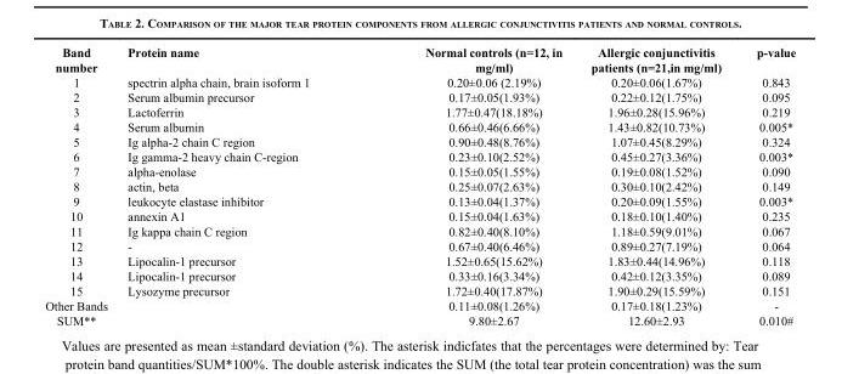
<table><thead><tr><td>Band number</td><td>Protein name</td><td>Normal controls (n=12, in mg/ml)</td><td>Allergic conjunctivitis patients (n=21,in mg/ml)</td><td>p-value</td></tr></thead><tbody><tr><td>1</td><td>spectrin alpha chain, brain isoform 1</td><td>0.20±0.06 (2.19%)</td><td>0.20±0.06(1.67%)</td><td>0.843</td></tr><tr><td>2</td><td>Serum albumin precursor</td><td>0.17±0.05(1.93%)</td><td>0.22±0.12(1.75%)</td><td>0.095</td></tr><tr><td>3</td><td>Lactoferrin</td><td>1.77±0.47(18.18%)</td><td>1.96±0.28(15.96%)</td><td>0.219</td></tr><tr><td>4</td><td>Serum albumin</td><td>0.66±0.46(6.66%)</td><td>1.43±0.82(10.73%)</td><td>0.005*</td></tr><tr><td>5</td><td>Ig alpha-2 chain C region</td><td>0.90±0.48(8.76%)</td><td>1.07±0.45(8.29%)</td><td>0.324</td></tr><tr><td>6</td><td>Ig gamma-2 heavy chain C-region</td><td>0.23±0.10(2.52%)</td><td>0.45±0.27(3.36%)</td><td>0.003*</td></tr><tr><td>7</td><td>alpha-enolase</td><td>0.15±0.05(1.55%)</td><td>0.19±0.08(1.52%)</td><td>0.090</td></tr><tr><td>8</td><td>actin, beta</td><td>0.25±0.07(2.63%)</td><td>0.30±0.10(2.42%)</td><td>0.149</td></tr><tr><td>9</td><td>leukocyte elastase inhibitor</td><td>0.13±0.04(1.37%)</td><td>0.20±0.09(1.55%)</td><td>0.003*</td></tr><tr><td>10</td><td>annexin A1</td><td>0.15±0.04(1.63%)</td><td>0.18±0.10(1.40%)</td><td>0.235</td></tr><tr><td>11</td><td>Ig kappa chain C region</td><td>0.82±0.40(8.10%)</td><td>1.18±0.59(9.01%)</td><td>0.067</td></tr><tr><td>12</td><td>-</td><td>0.67±0.40(6.46%)</td><td>0.89±0.27(7.19%)</td><td>0.064</td></tr><tr><td>13</td><td>Lipocalin-1 precursor</td><td>1.52±0.65(15.62%)</td><td>1.83±0.44(14.96%)</td><td>0.118</td></tr><tr><td>14</td><td>Lipocalin-1 precursor</td><td>0.33±0.16(3.34%)</td><td>0.42±0.12(3.35%)</td><td>0.089</td></tr><tr><td>15</td><td>Lysozyme precursor</td><td>1.72±0.40(17.87%)</td><td>1.90±0.29(15.59%)</td><td>0.151</td></tr><tr><td>Other Bands</td><td></td><td>0.11±0.08(1.26%)</td><td>0.17±0.18(1.23%)</td><td>-</td></tr><tr><td>SUM**</td><td></td><td>9.80±2.67</td><td>12.60±2.93</td><td>0.010#</td></tr></tbody></table>